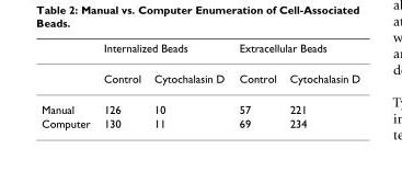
<table><thead><tr><td rowspan="2"></td><td colspan="2">Internalized Beads</td><td colspan="2">Extracellular Beads</td></tr><tr><td>Control</td><td>Cytochalasin D</td><td>Control</td><td>Cytochalasin D</td></tr></thead><tbody><tr><td>Manual</td><td>126</td><td>10</td><td>57</td><td>221</td></tr><tr><td>Computer</td><td>130</td><td>11</td><td>69</td><td>234</td></tr></tbody></table>